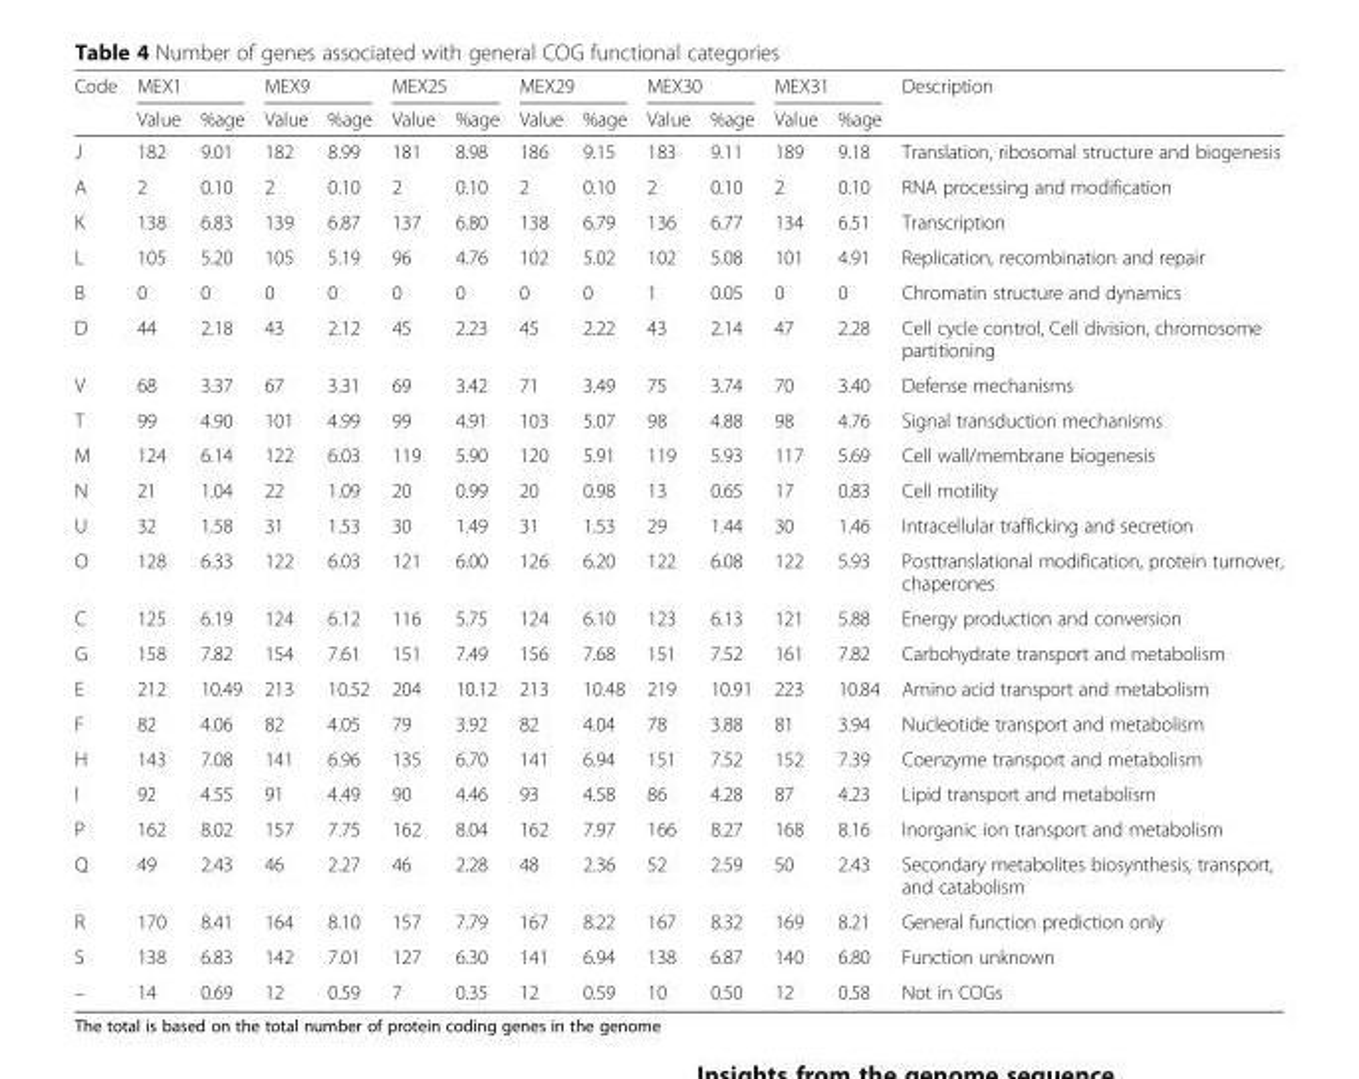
<table><thead><tr><td rowspan="2">Code</td><td colspan="2">MEX1</td><td colspan="2">MEX9</td><td colspan="2">MEX25</td><td colspan="2">MEX29</td><td colspan="2">MEX30</td><td colspan="2">MEX31</td><td rowspan="2">Description</td></tr><tr><td>Value</td><td>%age</td><td>Value</td><td>%age</td><td>Value</td><td>%age</td><td>Value</td><td>%age</td><td>Value</td><td>%age</td><td>Value</td><td>%age</td></tr></thead><tbody><tr><td>J</td><td>182</td><td>9.01</td><td>182</td><td>8.99</td><td>181</td><td>8.98</td><td>186</td><td>9.15</td><td>183</td><td>9.11</td><td>189</td><td>9.18</td><td>Translation, ribosomal structure and biogenesis</td></tr><tr><td>A</td><td>2</td><td>0.10</td><td>2</td><td>0.10</td><td>2</td><td>0.10</td><td>2</td><td>0.10</td><td>2</td><td>0.10</td><td>2</td><td>0.10</td><td>RNA processing and modification</td></tr><tr><td>K</td><td>138</td><td>6.83</td><td>139</td><td>6.87</td><td>137</td><td>6.80</td><td>138</td><td>6.79</td><td>136</td><td>6.77</td><td>134</td><td>6.51</td><td>Transcription</td></tr><tr><td>L</td><td>105</td><td>5.20</td><td>105</td><td>5.19</td><td>96</td><td>4.76</td><td>102</td><td>5.02</td><td>102</td><td>5.08</td><td>101</td><td>4.91</td><td>Replication, recombination and repair</td></tr><tr><td>B</td><td>0</td><td>0</td><td>0</td><td>0</td><td>0</td><td>0</td><td>0</td><td>0</td><td>1</td><td>0.05</td><td>0</td><td>0</td><td>Chromatin structure and dynamics</td></tr><tr><td>D</td><td>44</td><td>2.18</td><td>43</td><td>2.12</td><td>45</td><td>2.23</td><td>45</td><td>2.22</td><td>43</td><td>2.14</td><td>47</td><td>2.28</td><td>Cell cycle control, Cell division, chromosome partitioning</td></tr><tr><td>V</td><td>68</td><td>3.37</td><td>67</td><td>3.31</td><td>69</td><td>3.42</td><td>71</td><td>3.49</td><td>75</td><td>3.74</td><td>70</td><td>3.40</td><td>Defense mechanisms</td></tr><tr><td>T</td><td>99</td><td>4.90</td><td>101</td><td>4.99</td><td>99</td><td>4.91</td><td>103</td><td>5.07</td><td>98</td><td>4.88</td><td>98</td><td>4.76</td><td>Signal transduction mechanisms</td></tr><tr><td>M</td><td>124</td><td>6.14</td><td>122</td><td>6.03</td><td>119</td><td>5.90</td><td>120</td><td>5.91</td><td>119</td><td>5.93</td><td>117</td><td>5.69</td><td>Cell wall/membrane biogenesis</td></tr><tr><td>N</td><td>21</td><td>1.04</td><td>22</td><td>1.09</td><td>20</td><td>0.99</td><td>20</td><td>0.98</td><td>13</td><td>0.65</td><td>17</td><td>0.83</td><td>Cell motility</td></tr><tr><td>U</td><td>32</td><td>1.58</td><td>31</td><td>1.53</td><td>30</td><td>1.49</td><td>31</td><td>1.53</td><td>29</td><td>1.44</td><td>30</td><td>1.46</td><td>Intracellular trafficking and secretion</td></tr><tr><td>O</td><td>128</td><td>6.33</td><td>122</td><td>6.03</td><td>121</td><td>6.00</td><td>126</td><td>6.20</td><td>122</td><td>6.08</td><td>122</td><td>5.93</td><td>Posttranslational modification, protein turnover, chaperones</td></tr><tr><td>C</td><td>125</td><td>6.19</td><td>124</td><td>6.12</td><td>116</td><td>5.75</td><td>124</td><td>6.10</td><td>123</td><td>6.13</td><td>121</td><td>5.88</td><td>Energy production and conversion</td></tr><tr><td>G</td><td>158</td><td>7.82</td><td>154</td><td>7.61</td><td>151</td><td>7.49</td><td>156</td><td>7.68</td><td>151</td><td>7.52</td><td>161</td><td>7.82</td><td>Carbohydrate transport and metabolism</td></tr><tr><td>E</td><td>212</td><td>10.49</td><td>213</td><td>10.52</td><td>204</td><td>10.12</td><td>213</td><td>10.48</td><td>219</td><td>10.91</td><td>223</td><td>10.84</td><td>Amino acid transport and metabolism</td></tr><tr><td>F</td><td>82</td><td>4.06</td><td>82</td><td>4.05</td><td>79</td><td>3.92</td><td>82</td><td>4.04</td><td>78</td><td>3.88</td><td>81</td><td>3.94</td><td>Nucleotide transport and metabolism</td></tr><tr><td>H</td><td>143</td><td>7.08</td><td>141</td><td>6.96</td><td>135</td><td>6.70</td><td>141</td><td>6.94</td><td>151</td><td>7.52</td><td>152</td><td>7.39</td><td>Coenzyme transport and metabolism</td></tr><tr><td>I</td><td>92</td><td>4.55</td><td>91</td><td>4.49</td><td>90</td><td>4.46</td><td>93</td><td>4.58</td><td>86</td><td>4.28</td><td>87</td><td>4.23</td><td>Lipid transport and metabolism</td></tr><tr><td>P</td><td>162</td><td>8.02</td><td>157</td><td>7.75</td><td>162</td><td>8.04</td><td>162</td><td>7.97</td><td>166</td><td>8.27</td><td>168</td><td>8.16</td><td>Inorganic ion transport and metabolism</td></tr><tr><td>Q</td><td>49</td><td>2.43</td><td>46</td><td>2.27</td><td>46</td><td>2.28</td><td>48</td><td>2.36</td><td>52</td><td>2.59</td><td>50</td><td>2.43</td><td>Secondary metabolites biosynthesis, transport, and catabolism</td></tr><tr><td>R</td><td>170</td><td>8.41</td><td>164</td><td>8.10</td><td>157</td><td>7.79</td><td>167</td><td>8.22</td><td>167</td><td>8.32</td><td>169</td><td>8.21</td><td>General function prediction only</td></tr><tr><td>S</td><td>138</td><td>6.83</td><td>142</td><td>7.01</td><td>127</td><td>6.30</td><td>141</td><td>6.94</td><td>138</td><td>6.87</td><td>140</td><td>6.80</td><td>Function unknown</td></tr><tr><td>–</td><td>14</td><td>0.69</td><td>12</td><td>0.59</td><td>7</td><td>0.35</td><td>12</td><td>0.59</td><td>10</td><td>0.50</td><td>12</td><td>0.58</td><td>Not in COGs</td></tr></tbody></table>